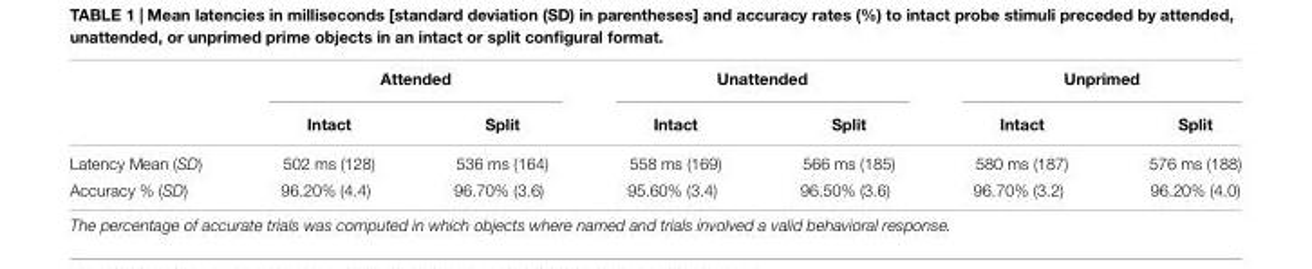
<table><thead><tr><td rowspan="2"></td><td colspan="2">Attended</td><td colspan="2">Unattended</td><td colspan="2">Unprimed</td></tr><tr><td>Intact</td><td>Split</td><td>Intact</td><td>Split</td><td>Intact</td><td>Split</td></tr></thead><tbody><tr><td>Latency Mean (SD)</td><td>502 ms (128)</td><td>536 ms (164)</td><td>558 ms (169)</td><td>566 ms (185)</td><td>580 ms (187)</td><td>576 ms (188)</td></tr><tr><td>Accuracy % (SD)</td><td>96.20% (4.4)</td><td>96.70% (3.6)</td><td>95.60% (3.4)</td><td>96.50% (3.6)</td><td>96.70% (3.2)</td><td>96.20% (4.0)</td></tr></tbody></table>